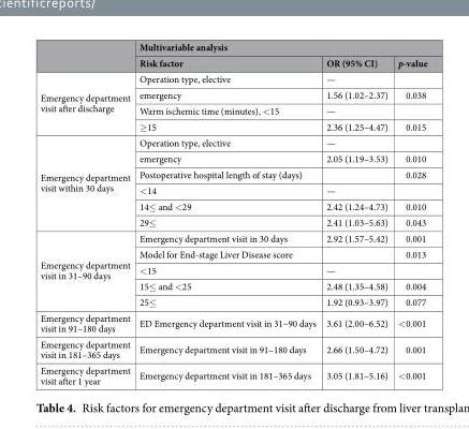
<table><thead><tr><td rowspan="2"></td><td colspan="3">Multivariable analysis</td></tr><tr><td>Risk factor</td><td>OR (95% CI)</td><td>p-value</td></tr></thead><tbody><tr><td rowspan="4">Emergency department visit after discharge</td><td>Operation type, elective</td><td>—</td><td></td></tr><tr><td>emergency</td><td>1.56 (1.02–2.37)</td><td>0.038</td></tr><tr><td>Warm ischemic time (minutes), &lt;15</td><td>—</td><td></td></tr><tr><td>≥15</td><td>2.36 (1.25–4.47)</td><td>0.015</td></tr><tr><td rowspan="6">Emergency department visit within 30 days</td><td>Operation type, elective</td><td>—</td><td></td></tr><tr><td>emergency</td><td>2.05 (1.19–3.53)</td><td>0.010</td></tr><tr><td>Postoperative hospital length of stay (days)</td><td></td><td>0.028</td></tr><tr><td>&lt;14</td><td>—</td><td></td></tr><tr><td>14≤ and &lt;29</td><td>2.42 (1.24–4.73)</td><td>0.010</td></tr><tr><td>29≤</td><td>2.41 (1.03–5.63)</td><td>0.043</td></tr><tr><td rowspan="5">Emergency department visit in 31–90 days</td><td>Emergency department visit in 30 days</td><td>2.92 (1.57–5.42)</td><td>0.001</td></tr><tr><td>Model for End-stage Liver Disease score</td><td></td><td>0.013</td></tr><tr><td>&lt;15</td><td>—</td><td></td></tr><tr><td>15≤ and &lt;25</td><td>2.48 (1.35–4.58)</td><td>0.004</td></tr><tr><td>25≤</td><td>1.92 (0.93–3.97)</td><td>0.077</td></tr><tr><td>Emergency department visit in 91–180 days</td><td>ED Emergency department visit in 31–90 days</td><td>3.61 (2.00–6.52)</td><td>&lt;0.001</td></tr><tr><td>Emergency department visit in 181–365 days</td><td>Emergency department visit in 91–180 days</td><td>2.66 (1.50–4.72)</td><td>0.001</td></tr><tr><td>Emergency department visit after 1 year</td><td>Emergency department visit in 181–365 days</td><td>3.05 (1.81–5.16)</td><td>&lt;0.001</td></tr></tbody></table>